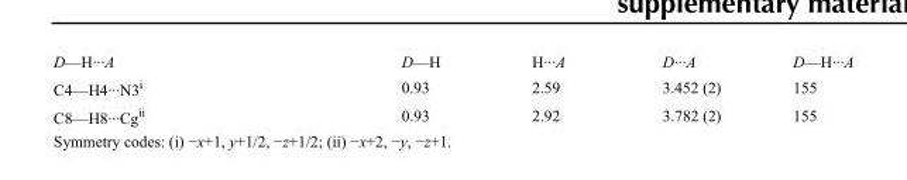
<table><tbody><tr><td>D—H···A</td><td>D—H</td><td>H···A</td><td>D···A</td><td>D—H···A</td></tr><tr><td>C4—H4···N3<sup>i</sup></td><td>0.93</td><td>2.59</td><td>3.452 (2)</td><td>155</td></tr><tr><td>C8—H8···Cg<sup>ii</sup></td><td>0.93</td><td>2.92</td><td>3.782 (2)</td><td>155</td></tr></tbody></table>